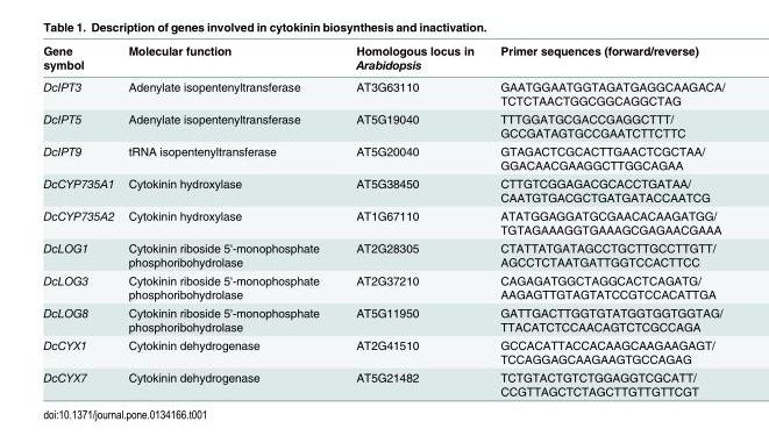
<table><thead><tr><td>Gene symbol</td><td>Molecular function</td><td>Homologous locus in Arabidopsis</td><td>Primer sequences (forward/reverse)</td></tr></thead><tbody><tr><td>DcIPT3</td><td>Adenylate isopentenyltransferase</td><td>AT3G63110</td><td>GAATGGAATGGTAGATGAGGCAAGACA/ TCTCTAACTGGCGGCAGGCTAG</td></tr><tr><td>DcIPT5</td><td>Adenylate isopentenyltransferase</td><td>AT5G19040</td><td>TTTGGATGCGACCGAGGCTTT/ GCCGATAGTGCCGAATCTTCTTC</td></tr><tr><td>DcIPT9</td><td>tRNA isopentenyltransferase</td><td>AT5G20040</td><td>GTAGACTCGCACTTGAACTCGCTAA/ GGACAACGAAGGCTTGGCAGAA</td></tr><tr><td>DcCYP735A1</td><td>Cytokinin hydroxylase</td><td>AT5G38450</td><td>CTTGTCGGAGACGCACCTGATAA/ CAATGTGACGCTGATGATACCAATCG</td></tr><tr><td>DcCYP735A2</td><td>Cytokinin hydroxylase</td><td>AT1G67110</td><td>ATATGGAGGATGCGAACACAAGATGG/ TGTAGAAAGGTGAAAGCGAGAACGAAA</td></tr><tr><td>DcLOG1</td><td>Cytokinin riboside 5&#x27;-monophosphate phosphoribohydrolase</td><td>AT2G28305</td><td>CTATTATGATAGCCTGCTTGCCTTGTT/ AGCCTCTAATGATTGGTCCACTTCC</td></tr><tr><td>DcLOG3</td><td>Cytokinin riboside 5&#x27;-monophosphate phosphoribohydrolase</td><td>AT2G37210</td><td>CAGAGATGGCTAGGCACTCAGATG/ AAGAGTTGTAGTATCCGTCCACATTGA</td></tr><tr><td>DcLOG8</td><td>Cytokinin riboside 5&#x27;-monophosphate phosphoribohydrolase</td><td>AT5G11950</td><td>GATTGACTTGGTGTATGGTGGTGGTAG/ TTACATCTCCAACAGTCTCGCCAGA</td></tr><tr><td>DcCYX1</td><td>Cytokinin dehydrogenase</td><td>AT2G41510</td><td>GCCACATTACCACAAGCAAGAAGAGT/ TCCAGGAGCAAGAAGTGCCAGAG</td></tr><tr><td>DcCYX7</td><td>Cytokinin dehydrogenase</td><td>AT5G21482</td><td>TCTGTACTGTCTGGAGGTCGCATT/ CCGTTAGCTCTAGCTTGTTGTTCGT</td></tr></tbody></table>